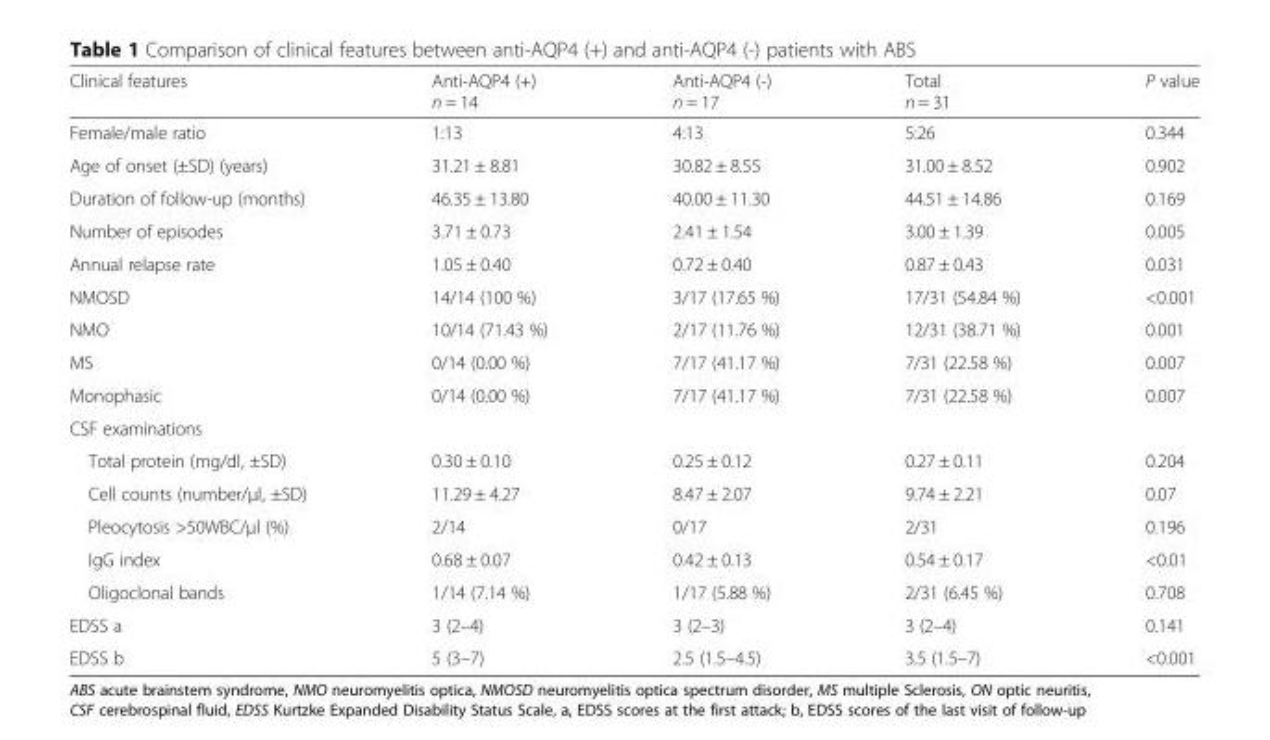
<table><thead><tr><td>Clinical features</td><td>Anti-AQP4 (+) n = 14</td><td>Anti-AQP4 (-) n = 17</td><td>Total n = 31</td><td>P value</td></tr></thead><tbody><tr><td>Female/male ratio</td><td>1:13</td><td>4:13</td><td>5:26</td><td>0.344</td></tr><tr><td>Age of onset (±SD) (years)</td><td>31.21 ± 8.81</td><td>30.82 ± 8.55</td><td>31.00 ± 8.52</td><td>0.902</td></tr><tr><td>Duration of follow-up (months)</td><td>46.35 ± 13.80</td><td>40.00 ± 11.30</td><td>44.51 ± 14.86</td><td>0.169</td></tr><tr><td>Number of episodes</td><td>3.71 ± 0.73</td><td>2.41 ± 1.54</td><td>3.00 ± 1.39</td><td>0.005</td></tr><tr><td>Annual relapse rate</td><td>1.05 ± 0.40</td><td>0.72 ± 0.40</td><td>0.87 ± 0.43</td><td>0.031</td></tr><tr><td>NMOSD</td><td>14/14 (100 %)</td><td>3/17 (17.65 %)</td><td>17/31 (54.84 %)</td><td>&lt;0.001</td></tr><tr><td>NMO</td><td>10/14 (71.43 %)</td><td>2/17 (11.76 %)</td><td>12/31 (38.71 %)</td><td>0.001</td></tr><tr><td>MS</td><td>0/14 (0.00 %)</td><td>7/17 (41.17 %)</td><td>7/31 (22.58 %)</td><td>0.007</td></tr><tr><td>Monophasic</td><td>0/14 (0.00 %)</td><td>7/17 (41.17 %)</td><td>7/31 (22.58 %)</td><td>0.007</td></tr><tr><td colspan="5">CSF examinations</td></tr><tr><td>Total protein (mg/dl, ±SD)</td><td>0.30 ± 0.10</td><td>0.25 ± 0.12</td><td>0.27 ± 0.11</td><td>0.204</td></tr><tr><td>Cell counts (number/μl, ±SD)</td><td>11.29 ± 4.27</td><td>8.47 ± 2.07</td><td>9.74 ± 2.21</td><td>0.07</td></tr><tr><td>Pleocytosis &gt;50WBC/μl (%)</td><td>2/14</td><td>0/17</td><td>2/31</td><td>0.196</td></tr><tr><td>IgG index</td><td>0.68 ± 0.07</td><td>0.42 ± 0.13</td><td>0.54 ± 0.17</td><td>&lt;0.01</td></tr><tr><td>Oligoclonal bands</td><td>1/14 (7.14 %)</td><td>1/17 (5.88 %)</td><td>2/31 (6.45 %)</td><td>0.708</td></tr><tr><td>EDSS a</td><td>3 (2–4)</td><td>3 (2–3)</td><td>3 (2–4)</td><td>0.141</td></tr><tr><td>EDSS b</td><td>5 (3–7)</td><td>2.5 (1.5–4.5)</td><td>3.5 (1.5–7)</td><td>&lt;0.001</td></tr></tbody></table>